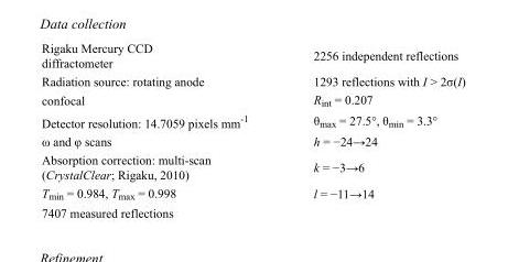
<table><tbody><tr><td>Rigaku Mercury CCD diffractometer</td><td>2256 independent reflections</td></tr><tr><td>Radiation source: rotating anode</td><td>1293 reflections with I &gt; 2σ(I)</td></tr><tr><td>confocal</td><td>R<sub>int</sub> = 0.207</td></tr><tr><td>Detector resolution: 14.7059 pixels mm<sup>-1</sup></td><td>θ<sub>max</sub> = 27.5°, θ<sub>min</sub> = 3.3°</td></tr><tr><td>ω and φ scans</td><td>h = −24→24</td></tr><tr><td>Absorption correction: multi-scan (CrystalClear; Rigaku, 2010)</td><td>k = −3→6</td></tr><tr><td>T<sub>min</sub> = 0.984, T<sub>max</sub> = 0.998</td><td>l = −11→14</td></tr><tr><td>7407 measured reflections</td><td></td></tr></tbody></table>